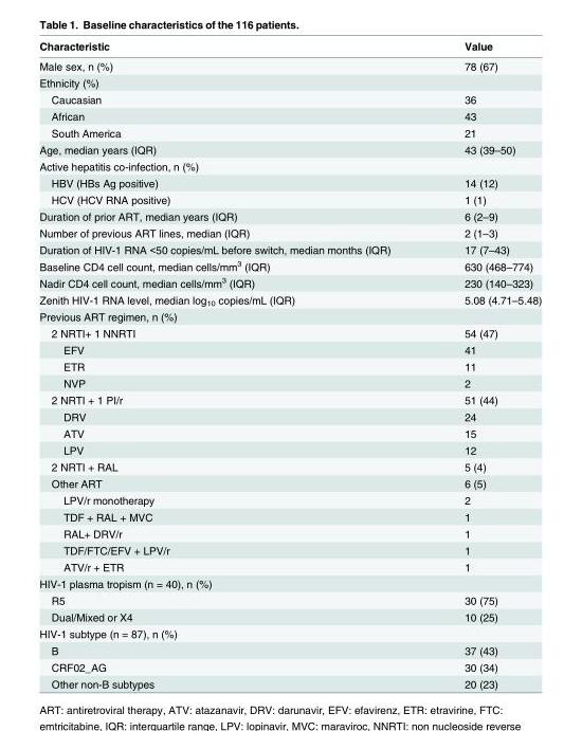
<table><thead><tr><td>Characteristic</td><td>Value</td></tr></thead><tbody><tr><td>Male sex, n (%)</td><td>78 (67)</td></tr><tr><td colspan="2">Ethnicity (%)</td></tr><tr><td>Caucasian</td><td>36</td></tr><tr><td>African</td><td>43</td></tr><tr><td>South America</td><td>21</td></tr><tr><td>Age, median years (IQR)</td><td>43 (39–50)</td></tr><tr><td colspan="2">Active hepatitis co-infection, n (%)</td></tr><tr><td>HBV (HBs Ag positive)</td><td>14 (12)</td></tr><tr><td>HCV (HCV RNA positive)</td><td>1 (1)</td></tr><tr><td>Duration of prior ART, median years (IQR)</td><td>6 (2–9)</td></tr><tr><td>Number of previous ART lines, median (IQR)</td><td>2 (1–3)</td></tr><tr><td>Duration of HIV-1 RNA &lt;50 copies/mL before switch, median months (IQR)</td><td>17 (7–43)</td></tr><tr><td>Baseline CD4 cell count, median cells/mm<sup>3</sup> (IQR)</td><td>630 (468–774)</td></tr><tr><td>Nadir CD4 cell count, median cells/mm<sup>3</sup> (IQR)</td><td>230 (140–323)</td></tr><tr><td>Zenith HIV-1 RNA level, median log<sub>10</sub> copies/mL (IQR)</td><td>5.08 (4.71–5.48)</td></tr><tr><td colspan="2">Previous ART regimen, n (%)</td></tr><tr><td>2 NRTI+ 1 NNRTI</td><td>54 (47)</td></tr><tr><td>EFV</td><td>41</td></tr><tr><td>ETR</td><td>11</td></tr><tr><td>NVP</td><td>2</td></tr><tr><td>2 NRTI + 1 PI/r</td><td>51 (44)</td></tr><tr><td>DRV</td><td>24</td></tr><tr><td>ATV</td><td>15</td></tr><tr><td>LPV</td><td>12</td></tr><tr><td>2 NRTI + RAL</td><td>5 (4)</td></tr><tr><td>Other ART</td><td>6 (5)</td></tr><tr><td>LPV/r monotherapy</td><td>2</td></tr><tr><td>TDF + RAL + MVC</td><td>1</td></tr><tr><td>RAL+ DRV/r</td><td>1</td></tr><tr><td>TDF/FTC/EFV + LPV/r</td><td>1</td></tr><tr><td>ATV/r + ETR</td><td>1</td></tr><tr><td colspan="2">HIV-1 plasma tropism (n = 40), n (%)</td></tr><tr><td>R5</td><td>30 (75)</td></tr><tr><td>Dual/Mixed or X4</td><td>10 (25)</td></tr><tr><td colspan="2">HIV-1 subtype (n = 87), n (%)</td></tr><tr><td>B</td><td>37 (43)</td></tr><tr><td>CRF02_AG</td><td>30 (34)</td></tr><tr><td>Other non-B subtypes</td><td>20 (23)</td></tr></tbody></table>